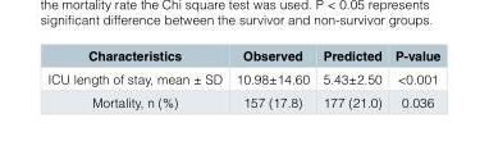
<table><thead><tr><td>Characteristics</td><td>Observed</td><td>Predicted</td><td>P-value</td></tr></thead><tbody><tr><td>ICU length of stay, mean ± SD</td><td>10.98±14.60</td><td>5.43±2.50</td><td>&lt;0.001</td></tr><tr><td>Mortality, n (%)</td><td>157 (17.8)</td><td>177 (21.0)</td><td>0.036</td></tr></tbody></table>